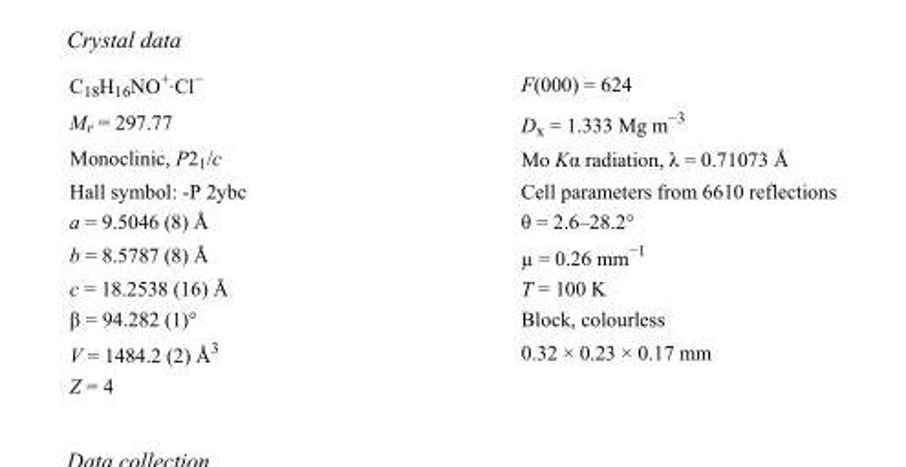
<table><tbody><tr><td>C<sub>18</sub>H<sub>16</sub>NO<sup>+</sup>·Cl<sup>−</sup></td><td>F(000) = 624</td></tr><tr><td>M<sub>r</sub> = 297.77</td><td>D<sub>x</sub> = 1.333 Mg m<sup>−3</sup></td></tr><tr><td>Monoclinic, P2<sub>1</sub>/c</td><td>Mo Kα radiation, λ = 0.71073 Å</td></tr><tr><td>Hall symbol: -P 2ybc</td><td>Cell parameters from 6610 reflections</td></tr><tr><td>a = 9.5046 (8) Å</td><td>θ = 2.6–28.2°</td></tr><tr><td>b = 8.5787 (8) Å</td><td>µ = 0.26 mm<sup>−1</sup></td></tr><tr><td>c = 18.2538 (16) Å</td><td>T = 100 K</td></tr><tr><td>β = 94.282 (1)°</td><td>Block, colourless</td></tr><tr><td>V = 1484.2 (2) Å<sup>3</sup></td><td>0.32 × 0.23 × 0.17 mm</td></tr><tr><td>Z = 4</td><td></td></tr></tbody></table>